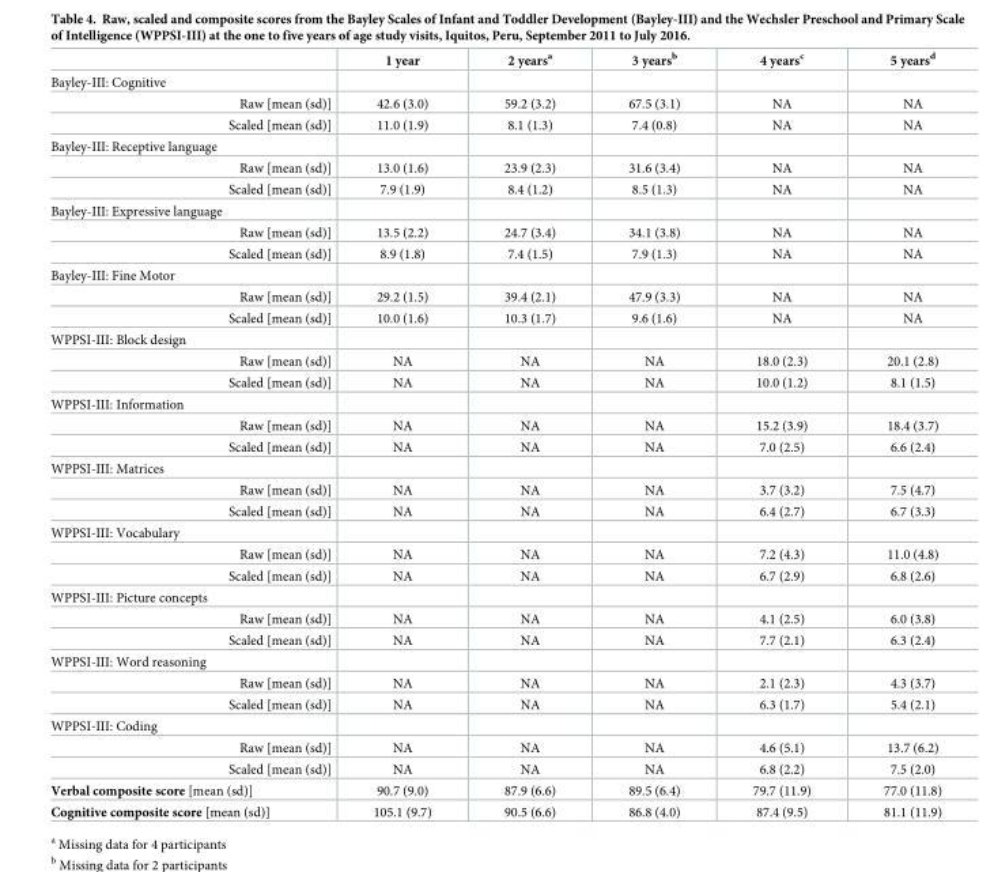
<table><thead><tr><td></td><td>1 year</td><td>2 years<sup>a</sup></td><td>3 years<sup>b</sup></td><td>4 years<sup>c</sup></td><td>5 years<sup>d</sup></td></tr></thead><tbody><tr><td colspan="6">Bayley-III: Cognitive</td></tr><tr><td>Raw [mean (sd)]</td><td>42.6 (3.0)</td><td>59.2 (3.2)</td><td>67.5 (3.1)</td><td>NA</td><td>NA</td></tr><tr><td>Scaled [mean (sd)]</td><td>11.0 (1.9)</td><td>8.1 (1.3)</td><td>7.4 (0.8)</td><td>NA</td><td>NA</td></tr><tr><td colspan="6">Bayley-III: Receptive language</td></tr><tr><td>Raw [mean (sd)]</td><td>13.0 (1.6)</td><td>23.9 (2.3)</td><td>31.6 (3.4)</td><td>NA</td><td>NA</td></tr><tr><td>Scaled [mean (sd)]</td><td>7.9 (1.9)</td><td>8.4 (1.2)</td><td>8.5 (1.3)</td><td>NA</td><td>NA</td></tr><tr><td colspan="6">Bayley-III: Expressive language</td></tr><tr><td>Raw [mean (sd)]</td><td>13.5 (2.2)</td><td>24.7 (3.4)</td><td>34.1 (3.8)</td><td>NA</td><td>NA</td></tr><tr><td>Scaled [mean (sd)]</td><td>8.9 (1.8)</td><td>7.4 (1.5)</td><td>7.9 (1.3)</td><td>NA</td><td>NA</td></tr><tr><td colspan="6">Bayley-III: Fine Motor</td></tr><tr><td>Raw [mean (sd)]</td><td>29.2 (1.5)</td><td>39.4 (2.1)</td><td>47.9 (3.3)</td><td>NA</td><td>NA</td></tr><tr><td>Scaled [mean (sd)]</td><td>10.0 (1.6)</td><td>10.3 (1.7)</td><td>9.6 (1.6)</td><td>NA</td><td>NA</td></tr><tr><td colspan="6">WPPSI-III: Block design</td></tr><tr><td>Raw [mean (sd)]</td><td>NA</td><td>NA</td><td>NA</td><td>18.0 (2.3)</td><td>20.1 (2.8)</td></tr><tr><td>Scaled [mean (sd)]</td><td>NA</td><td>NA</td><td>NA</td><td>10.0 (1.2)</td><td>8.1 (1.5)</td></tr><tr><td colspan="6">WPPSI-III: Information</td></tr><tr><td>Raw [mean (sd)]</td><td>NA</td><td>NA</td><td>NA</td><td>15.2 (3.9)</td><td>18.4 (3.7)</td></tr><tr><td>Scaled [mean (sd)]</td><td>NA</td><td>NA</td><td>NA</td><td>7.0 (2.5)</td><td>6.6 (2.4)</td></tr><tr><td colspan="6">WPPSI-III: Matrices</td></tr><tr><td>Raw [mean (sd)]</td><td>NA</td><td>NA</td><td>NA</td><td>3.7 (3.2)</td><td>7.5 (4.7)</td></tr><tr><td>Scaled [mean (sd)]</td><td>NA</td><td>NA</td><td>NA</td><td>6.4 (2.7)</td><td>6.7 (3.3)</td></tr><tr><td colspan="6">WPPSI-III: Vocabulary</td></tr><tr><td>Raw [mean (sd)]</td><td>NA</td><td>NA</td><td>NA</td><td>7.2 (4.3)</td><td>11.0 (4.8)</td></tr><tr><td>Scaled [mean (sd)]</td><td>NA</td><td>NA</td><td>NA</td><td>6.7 (2.9)</td><td>6.8 (2.6)</td></tr><tr><td colspan="6">WPPSI-III: Picture concepts</td></tr><tr><td>Raw [mean (sd)]</td><td>NA</td><td>NA</td><td>NA</td><td>4.1 (2.5)</td><td>6.0 (3.8)</td></tr><tr><td>Scaled [mean (sd)]</td><td>NA</td><td>NA</td><td>NA</td><td>7.7 (2.1)</td><td>6.3 (2.4)</td></tr><tr><td colspan="6">WPPSI-III: Word reasoning</td></tr><tr><td>Raw [mean (sd)]</td><td>NA</td><td>NA</td><td>NA</td><td>2.1 (2.3)</td><td>4.3 (3.7)</td></tr><tr><td>Scaled [mean (sd)]</td><td>NA</td><td>NA</td><td>NA</td><td>6.3 (1.7)</td><td>5.4 (2.1)</td></tr><tr><td colspan="6">WPPSI-III: Coding</td></tr><tr><td>Raw [mean (sd)]</td><td>NA</td><td>NA</td><td>NA</td><td>4.6 (5.1)</td><td>13.7 (6.2)</td></tr><tr><td>Scaled [mean (sd)]</td><td>NA</td><td>NA</td><td>NA</td><td>6.8 (2.2)</td><td>7.5 (2.0)</td></tr><tr><td>Verbal composite score [mean (sd)]</td><td>90.7 (9.0)</td><td>87.9 (6.6)</td><td>89.5 (6.4)</td><td>79.7 (11.9)</td><td>77.0 (11.8)</td></tr><tr><td>Cognitive composite score [mean (sd)]</td><td>105.1 (9.7)</td><td>90.5 (6.6)</td><td>86.8 (4.0)</td><td>87.4 (9.5)</td><td>81.1 (11.9)</td></tr></tbody></table>